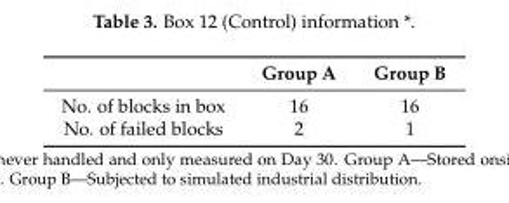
<table><thead><tr><td></td><td>Group A</td><td>Group B</td></tr></thead><tbody><tr><td>No. of blocks in box</td><td>16</td><td>16</td></tr><tr><td>No. of failed blocks</td><td>2</td><td>1</td></tr></tbody></table>